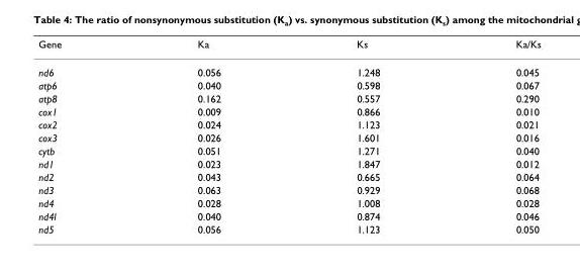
<table><thead><tr><td>Gene</td><td>Ka</td><td>Ks</td><td>Ka/Ks</td></tr></thead><tbody><tr><td>nd6</td><td>0.056</td><td>1.248</td><td>0.045</td></tr><tr><td>atp6</td><td>0.040</td><td>0.598</td><td>0.067</td></tr><tr><td>atp8</td><td>0.162</td><td>0.557</td><td>0.290</td></tr><tr><td>cox1</td><td>0.009</td><td>0.866</td><td>0.010</td></tr><tr><td>cox2</td><td>0.024</td><td>1.123</td><td>0.021</td></tr><tr><td>cox3</td><td>0.026</td><td>1.601</td><td>0.016</td></tr><tr><td>cytb</td><td>0.051</td><td>1.271</td><td>0.040</td></tr><tr><td>nd1</td><td>0.023</td><td>1.847</td><td>0.012</td></tr><tr><td>nd2</td><td>0.043</td><td>0.665</td><td>0.064</td></tr><tr><td>nd3</td><td>0.063</td><td>0.929</td><td>0.068</td></tr><tr><td>nd4</td><td>0.028</td><td>1.008</td><td>0.028</td></tr><tr><td>nd4l</td><td>0.040</td><td>0.874</td><td>0.046</td></tr><tr><td>nd5</td><td>0.056</td><td>1.123</td><td>0.050</td></tr></tbody></table>